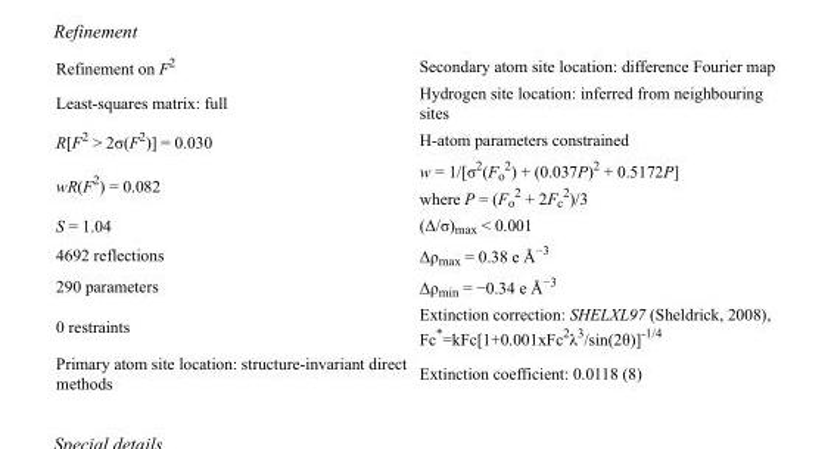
<table><tbody><tr><td>Refinement on F<sup>2</sup></td><td>Secondary atom site location: difference Fourier map</td></tr><tr><td>Least-squares matrix: full</td><td>Hydrogen site location: inferred from neighbouring sites</td></tr><tr><td>R[F<sup>2</sup> &gt; 2σ(F<sup>2</sup>)] = 0.030</td><td>H-atom parameters constrained</td></tr><tr><td>wR(F<sup>2</sup>) = 0.082</td><td>w = 1/[σ<sup>2</sup>(F<sub>o</sub> <sup>2</sup>) + (0.037P)<sup>2</sup> + 0.5172P] where P = (F<sub>o</sub> <sup>2</sup> + 2F<sub>c</sub> <sup>2</sup>)/3</td></tr><tr><td>S = 1.04</td><td>(Δ/σ)<sub>max</sub> &lt; 0.001</td></tr><tr><td>4692 reflections</td><td>Δρ<sub>max</sub> = 0.38 e Å<sup>−3</sup></td></tr><tr><td>290 parameters</td><td>Δρ<sub>min</sub> = −0.34 e Å<sup>−3</sup></td></tr><tr><td>0 restraints</td><td>Extinction correction: SHELXL97 (Sheldrick, 2008), Fc*=kFc[1+0.001xFc<sup>2</sup>λ<sup>3</sup>/sin(2θ)]<sup>-1/4</sup></td></tr><tr><td>Primary atom site location: structure-invariant direct methods</td><td>Extinction coefficient: 0.0118 (8)</td></tr></tbody></table>